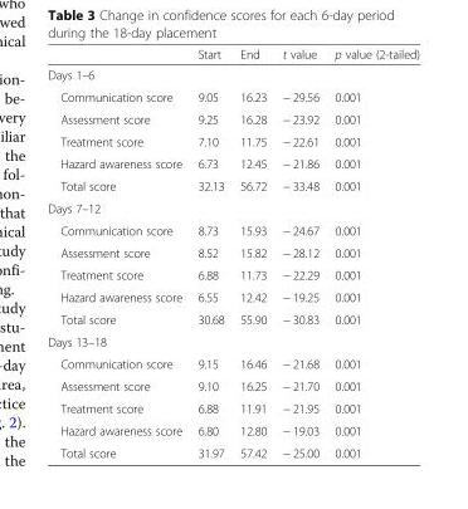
<table><thead><tr><td></td><td>Start</td><td>End</td><td>t value</td><td>p value (2-tailed)</td></tr></thead><tbody><tr><td colspan="5">Days 1–6</td></tr><tr><td>Communication score</td><td>9.05</td><td>16.23</td><td>− 29.56</td><td>0.001</td></tr><tr><td>Assessment score</td><td>9.25</td><td>16.28</td><td>− 23.92</td><td>0.001</td></tr><tr><td>Treatment score</td><td>7.10</td><td>11.75</td><td>− 22.61</td><td>0.001</td></tr><tr><td>Hazard awareness score</td><td>6.73</td><td>12.45</td><td>− 21.86</td><td>0.001</td></tr><tr><td>Total score</td><td>32.13</td><td>56.72</td><td>− 33.48</td><td>0.001</td></tr><tr><td colspan="5">Days 7–12</td></tr><tr><td>Communication score</td><td>8.73</td><td>15.93</td><td>− 24.67</td><td>0.001</td></tr><tr><td>Assessment score</td><td>8.52</td><td>15.82</td><td>− 28.12</td><td>0.001</td></tr><tr><td>Treatment score</td><td>6.88</td><td>11.73</td><td>− 22.29</td><td>0.001</td></tr><tr><td>Hazard awareness score</td><td>6.55</td><td>12.42</td><td>− 19.25</td><td>0.001</td></tr><tr><td>Total score</td><td>30.68</td><td>55.90</td><td>− 30.83</td><td>0.001</td></tr><tr><td colspan="5">Days 13–18</td></tr><tr><td>Communication score</td><td>9.15</td><td>16.46</td><td>− 21.68</td><td>0.001</td></tr><tr><td>Assessment score</td><td>9.10</td><td>16.25</td><td>− 21.70</td><td>0.001</td></tr><tr><td>Treatment score</td><td>6.88</td><td>11.91</td><td>− 21.95</td><td>0.001</td></tr><tr><td>Hazard awareness score</td><td>6.80</td><td>12.80</td><td>− 19.03</td><td>0.001</td></tr><tr><td>Total score</td><td>31.97</td><td>57.42</td><td>− 25.00</td><td>0.001</td></tr></tbody></table>